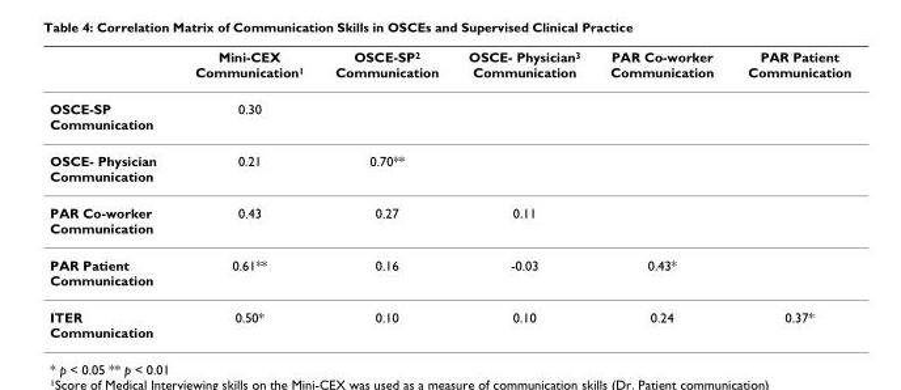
<table><thead><tr><td></td><td>Mini-CEX Communication<sup>1</sup></td><td>OSCE-SP2 Communication</td><td>OSCE- Physician3 Communication</td><td>PAR Co-worker Communication</td><td>PAR Patient Communication</td></tr></thead><tbody><tr><td>OSCE-SP Communication</td><td>0.30</td><td></td><td></td><td></td><td></td></tr><tr><td>OSCE- Physician Communication</td><td>0.21</td><td>0.70**</td><td></td><td></td><td></td></tr><tr><td>PAR Co-worker Communication</td><td>0.43</td><td>0.27</td><td>0.11</td><td></td><td></td></tr><tr><td>PAR Patient Communication</td><td>0.61**</td><td>0.16</td><td>-0.03</td><td>0.43*</td><td></td></tr><tr><td>ITER Communication</td><td>0.50*</td><td>0.10</td><td>0.10</td><td>0.24</td><td>0.37*</td></tr></tbody></table>